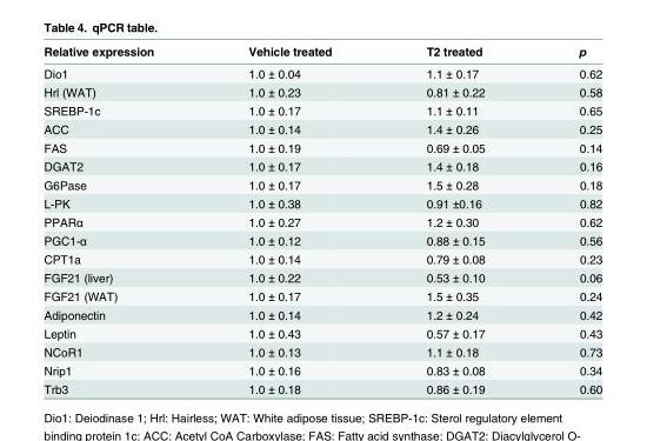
<table><thead><tr><td>Relative expression</td><td>Vehicle treated</td><td>T2 treated</td><td>p</td></tr></thead><tbody><tr><td>Dio1</td><td>1.0 ± 0.04</td><td>1.1 ± 0.17</td><td>0.62</td></tr><tr><td>Hrl (WAT)</td><td>1.0 ± 0.23</td><td>0.81 ± 0.22</td><td>0.58</td></tr><tr><td>SREBP-1c</td><td>1.0 ± 0.17</td><td>1.1 ± 0.11</td><td>0.65</td></tr><tr><td>ACC</td><td>1.0 ± 0.14</td><td>1.4 ± 0.26</td><td>0.25</td></tr><tr><td>FAS</td><td>1.0 ± 0.19</td><td>0.69 ± 0.05</td><td>0.14</td></tr><tr><td>DGAT2</td><td>1.0 ± 0.17</td><td>1.4 ± 0.18</td><td>0.16</td></tr><tr><td>G6Pase</td><td>1.0 ± 0.17</td><td>1.5 ± 0.28</td><td>0.18</td></tr><tr><td>L-PK</td><td>1.0 ± 0.38</td><td>0.91 ±0.16</td><td>0.82</td></tr><tr><td>PPARα</td><td>1.0 ± 0.27</td><td>1.2 ± 0.30</td><td>0.62</td></tr><tr><td>PGC1-α</td><td>1.0 ± 0.12</td><td>0.88 ± 0.15</td><td>0.56</td></tr><tr><td>CPT1a</td><td>1.0 ± 0.14</td><td>0.79 ± 0.08</td><td>0.23</td></tr><tr><td>FGF21 (liver)</td><td>1.0 ± 0.22</td><td>0.53 ± 0.10</td><td>0.06</td></tr><tr><td>FGF21 (WAT)</td><td>1.0 ± 0.17</td><td>1.5 ± 0.35</td><td>0.24</td></tr><tr><td>Adiponectin</td><td>1.0 ± 0.14</td><td>1.2 ± 0.24</td><td>0.42</td></tr><tr><td>Leptin</td><td>1.0 ± 0.43</td><td>0.57 ± 0.17</td><td>0.43</td></tr><tr><td>NCoR1</td><td>1.0 ± 0.13</td><td>1.1 ± 0.18</td><td>0.73</td></tr><tr><td>Nrip1</td><td>1.0 ± 0.16</td><td>0.83 ± 0.08</td><td>0.34</td></tr><tr><td>Trb3</td><td>1.0 ± 0.18</td><td>0.86 ± 0.19</td><td>0.60</td></tr></tbody></table>